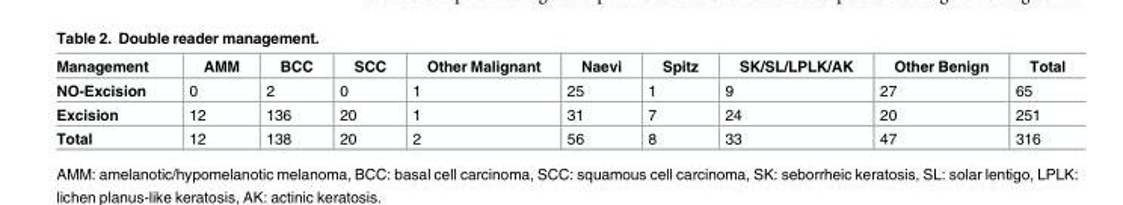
<table><thead><tr><td>Management</td><td>AMM</td><td>BCC</td><td>SCC</td><td>Other Malignant</td><td>Naevi</td><td>Spitz</td><td>SK/SL/LPLK/AK</td><td>Other Benign</td><td>Total</td></tr></thead><tbody><tr><td>NO-Excision</td><td>0</td><td>2</td><td>0</td><td>1</td><td>25</td><td>1</td><td>9</td><td>27</td><td>65</td></tr><tr><td>Excision</td><td>12</td><td>136</td><td>20</td><td>1</td><td>31</td><td>7</td><td>24</td><td>20</td><td>251</td></tr><tr><td>Total</td><td>12</td><td>138</td><td>20</td><td>2</td><td>56</td><td>8</td><td>33</td><td>47</td><td>316</td></tr></tbody></table>